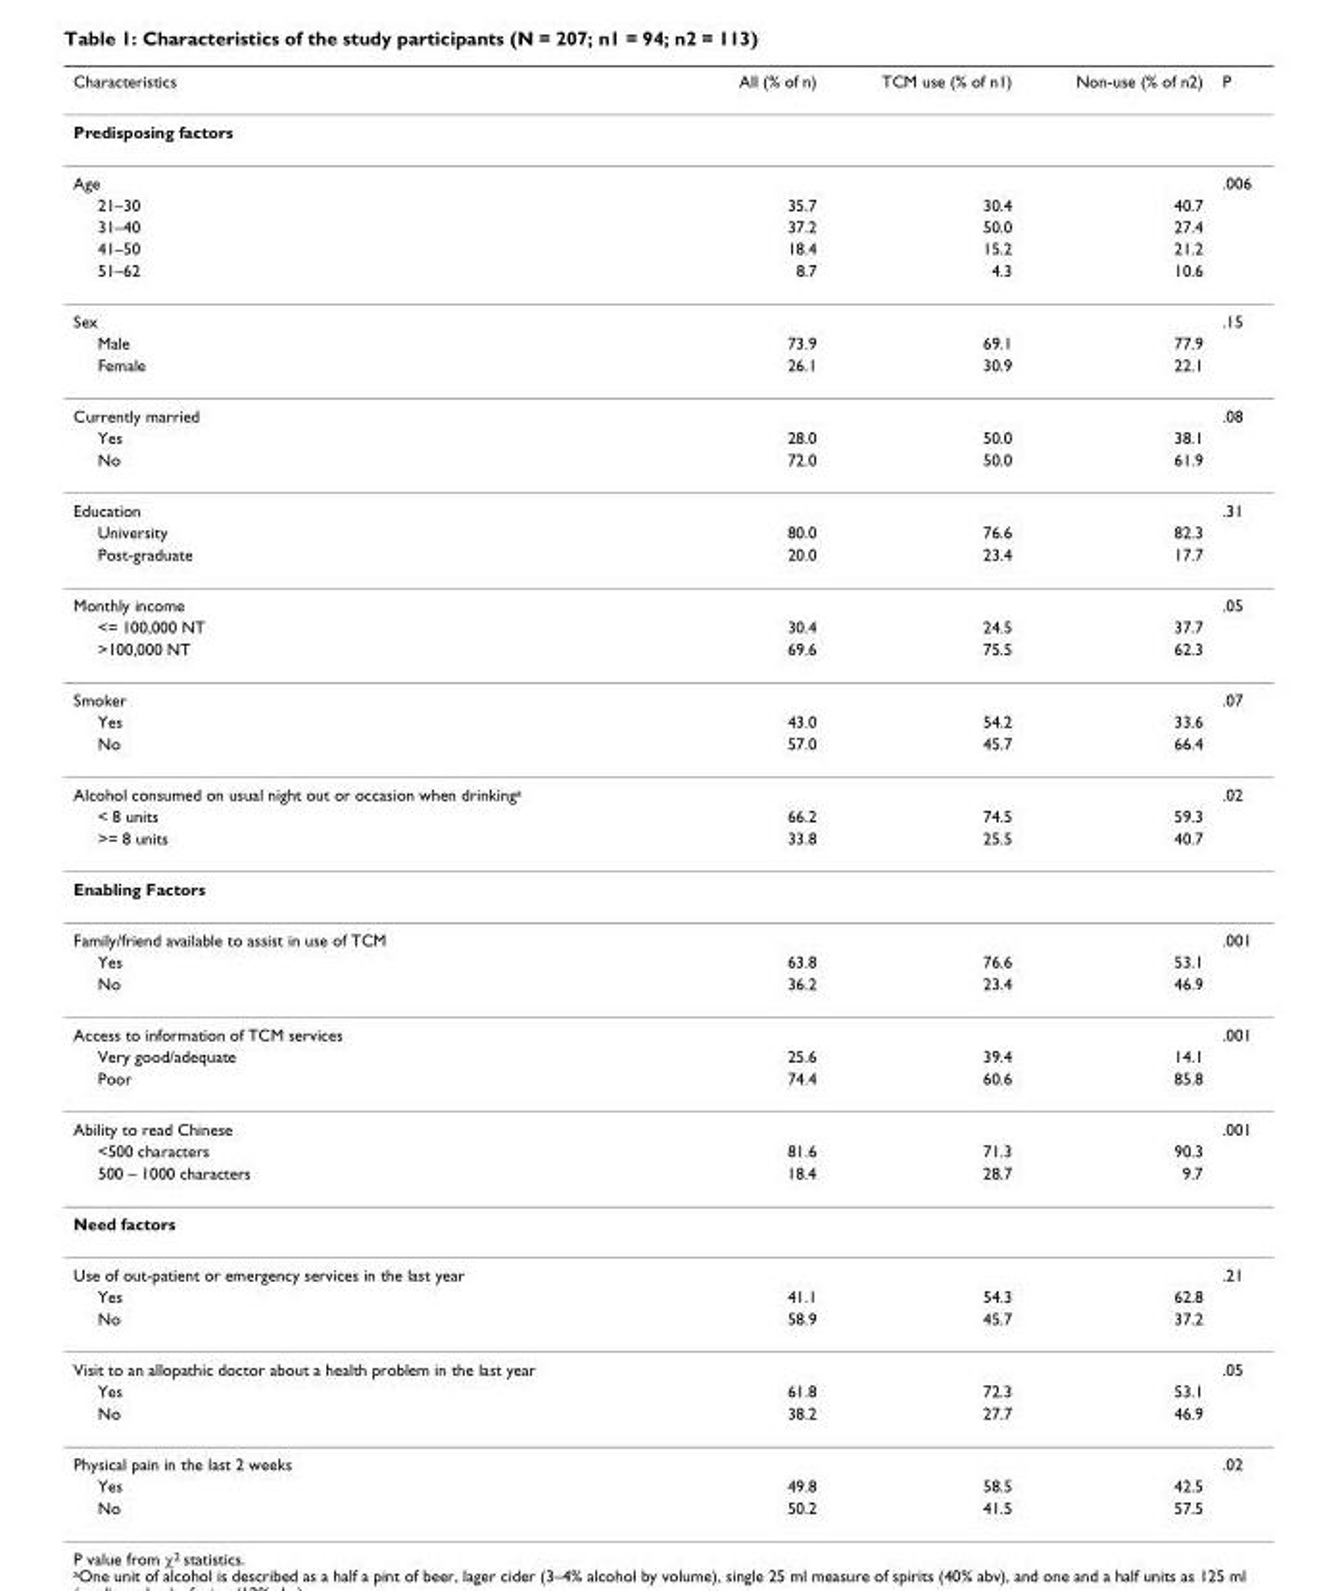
<table><thead><tr><td>Characteristics</td><td>All (% of n)</td><td>TCM use (% of n1)</td><td>Non-use (% of n2)</td><td>P</td></tr></thead><tbody><tr><td colspan="5">Predisposing factors</td></tr><tr><td>Age</td><td></td><td></td><td></td><td>.006</td></tr><tr><td>21–30</td><td>35.7</td><td>30.4</td><td>40.7</td><td></td></tr><tr><td>31–40</td><td>37.2</td><td>50.0</td><td>27.4</td><td></td></tr><tr><td>41–50</td><td>18.4</td><td>15.2</td><td>21.2</td><td></td></tr><tr><td>51–62</td><td>8.7</td><td>4.3</td><td>10.6</td><td></td></tr><tr><td>Sex</td><td></td><td></td><td></td><td>.15</td></tr><tr><td>Male</td><td>73.9</td><td>69.1</td><td>77.9</td><td></td></tr><tr><td>Female</td><td>26.1</td><td>30.9</td><td>22.1</td><td></td></tr><tr><td>Currently married</td><td></td><td></td><td></td><td>.08</td></tr><tr><td>Yes</td><td>28.0</td><td>50.0</td><td>38.1</td><td></td></tr><tr><td>No</td><td>72.0</td><td>50.0</td><td>61.9</td><td></td></tr><tr><td>Education</td><td></td><td></td><td></td><td>.31</td></tr><tr><td>University</td><td>80.0</td><td>76.6</td><td>82.3</td><td></td></tr><tr><td>Post-graduate</td><td>20.0</td><td>23.4</td><td>17.7</td><td></td></tr><tr><td>Monthly income</td><td></td><td></td><td></td><td>.05</td></tr><tr><td>&lt;= 100,000 NT</td><td>30.4</td><td>24.5</td><td>37.7</td><td></td></tr><tr><td>&gt;100,000 NT</td><td>69.6</td><td>75.5</td><td>62.3</td><td></td></tr><tr><td>Smoker</td><td></td><td></td><td></td><td>.07</td></tr><tr><td>Yes</td><td>43.0</td><td>54.2</td><td>33.6</td><td></td></tr><tr><td>No</td><td>57.0</td><td>45.7</td><td>66.4</td><td></td></tr><tr><td>Alcohol consumed on usual night out or occasion when drinking<sup>a</sup></td><td></td><td></td><td></td><td>.02</td></tr><tr><td>&lt; 8 units</td><td>66.2</td><td>74.5</td><td>59.3</td><td></td></tr><tr><td>&gt;= 8 units</td><td>33.8</td><td>25.5</td><td>40.7</td><td></td></tr><tr><td colspan="5">Enabling Factors</td></tr><tr><td>Family/friend available to assist in use of TCM</td><td></td><td></td><td></td><td>.001</td></tr><tr><td>Yes</td><td>63.8</td><td>76.6</td><td>53.1</td><td></td></tr><tr><td>No</td><td>36.2</td><td>23.4</td><td>46.9</td><td></td></tr><tr><td>Access to information of TCM services</td><td></td><td></td><td></td><td>.001</td></tr><tr><td>Very good/adequate</td><td>25.6</td><td>39.4</td><td>14.1</td><td></td></tr><tr><td>Poor</td><td>74.4</td><td>60.6</td><td>85.8</td><td></td></tr><tr><td>Ability to read Chinese</td><td></td><td></td><td></td><td>.001</td></tr><tr><td>&lt;500 characters</td><td>81.6</td><td>71.3</td><td>90.3</td><td></td></tr><tr><td>500 – 1000 characters</td><td>18.4</td><td>28.7</td><td>9.7</td><td></td></tr><tr><td colspan="5">Need factors</td></tr><tr><td>Use of out-patient or emergency services in the last year</td><td></td><td></td><td></td><td>.21</td></tr><tr><td>Yes</td><td>41.1</td><td>54.3</td><td>62.8</td><td></td></tr><tr><td>No</td><td>58.9</td><td>45.7</td><td>37.2</td><td></td></tr><tr><td>Visit to an allopathic doctor about a health problem in the last year</td><td></td><td></td><td></td><td>.05</td></tr><tr><td>Yes</td><td>61.8</td><td>72.3</td><td>53.1</td><td></td></tr><tr><td>No</td><td>38.2</td><td>27.7</td><td>46.9</td><td></td></tr><tr><td>Physical pain in the last 2 weeks</td><td></td><td></td><td></td><td>.02</td></tr><tr><td>Yes</td><td>49.8</td><td>58.5</td><td>42.5</td><td></td></tr><tr><td>No</td><td>50.2</td><td>41.5</td><td>57.5</td><td></td></tr></tbody></table>